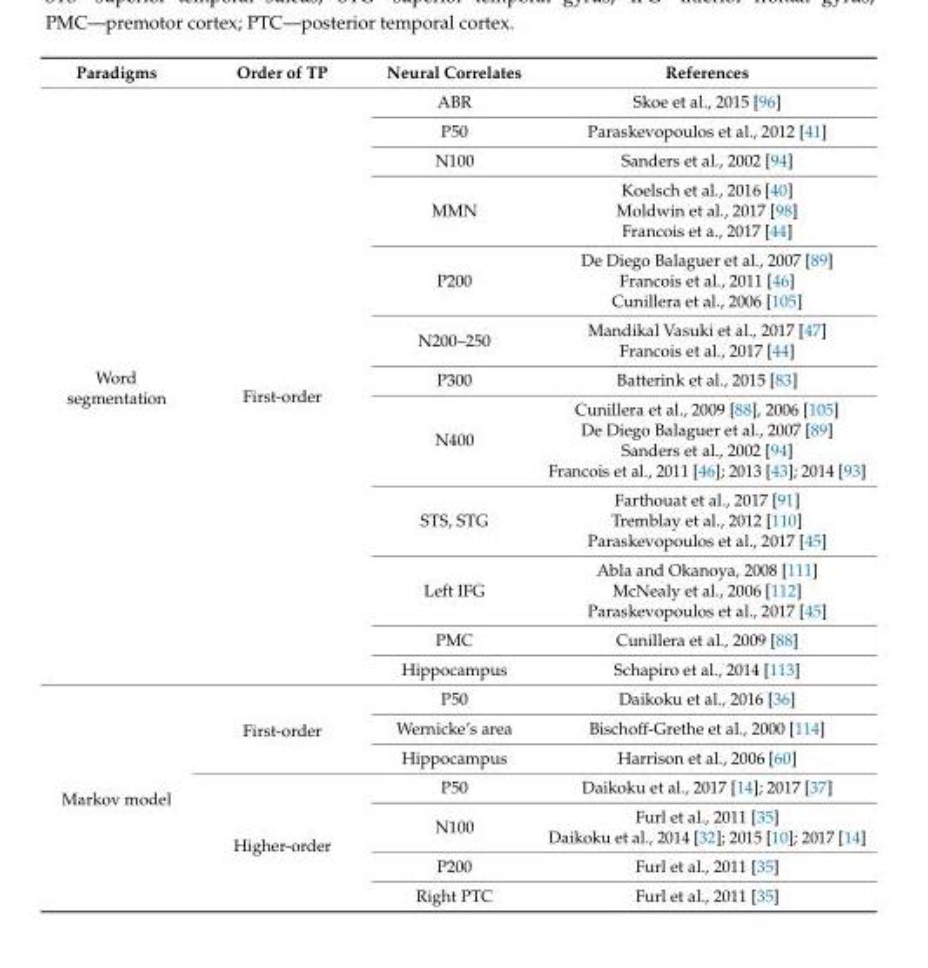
<table><thead><tr><td>Paradigms</td><td>Order of TP</td><td>Neural Correlates</td><td>References</td></tr></thead><tbody><tr><td rowspan="12">Word segmentation</td><td rowspan="12">First-order</td><td>ABR</td><td>Skoe et al., 2015 [96]</td></tr><tr><td>P50</td><td>Paraskevopoulos et al., 2012 [41]</td></tr><tr><td>N100</td><td>Sanders et al., 2002 [94]</td></tr><tr><td>MMN</td><td>Koelsch et al., 2016 [40] Moldwin et al., 2017 [98] Francois et a., 2017 [44]</td></tr><tr><td>P200</td><td>De Diego Balaguer et al., 2007 [89] Francois et al., 2011 [46] Cunillera et al., 2006 [105]</td></tr><tr><td>N200–250</td><td>Mandikal Vasuki et al., 2017 [47] Francois et al., 2017 [44]</td></tr><tr><td>P300</td><td>Batterink et al., 2015 [83]</td></tr><tr><td>N400</td><td>Cunillera et al., 2009 [88], 2006 [105] De Diego Balaguer et al., 2007 [89] Sanders et al., 2002 [94] Francois et al., 2011 [46]; 2013 [43]; 2014 [93]</td></tr><tr><td>STS, STG</td><td>Farthouat et al., 2017 [91] Tremblay et al., 2012 [110] Paraskevopoulos et al., 2017 [45]</td></tr><tr><td>Left IFG</td><td>Abla and Okanoya, 2008 [111] McNealy et al., 2006 [112] Paraskevopoulos et al., 2017 [45]</td></tr><tr><td>PMC</td><td>Cunillera et al., 2009 [88]</td></tr><tr><td>Hippocampus</td><td>Schapiro et al., 2014 [113]</td></tr><tr><td rowspan="7">Markov model</td><td rowspan="3">First-order</td><td>P50</td><td>Daikoku et al., 2016 [36]</td></tr><tr><td>Wernicke’s area</td><td>Bischoff-Grethe et al., 2000 [114]</td></tr><tr><td>Hippocampus</td><td>Harrison et al., 2006 [60]</td></tr><tr><td rowspan="4">Higher-order</td><td>P50</td><td>Daikoku et al., 2017 [14]; 2017 [37]</td></tr><tr><td>N100</td><td>Furl et al., 2011 [35] Daikoku et al., 2014 [32]; 2015 [10]; 2017 [14]</td></tr><tr><td>P200</td><td>Furl et al., 2011 [35]</td></tr><tr><td>Right PTC</td><td>Furl et al., 2011 [35]</td></tr></tbody></table>